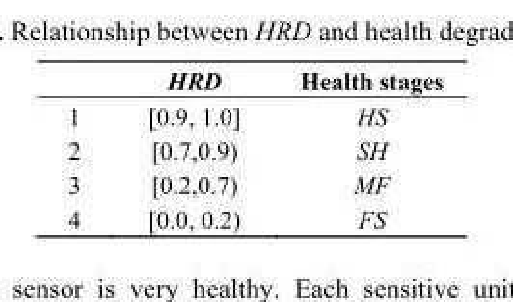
<table><thead><tr><td></td><td>HRD</td><td>Health stages</td></tr></thead><tbody><tr><td>1</td><td>[0.9, 1.0]</td><td>HS</td></tr><tr><td>2</td><td>[0.7,0.9)</td><td>SH</td></tr><tr><td>3</td><td>[0.2,0.7)</td><td>MF</td></tr><tr><td>4</td><td>[0.0, 0.2)</td><td>FS</td></tr></tbody></table>